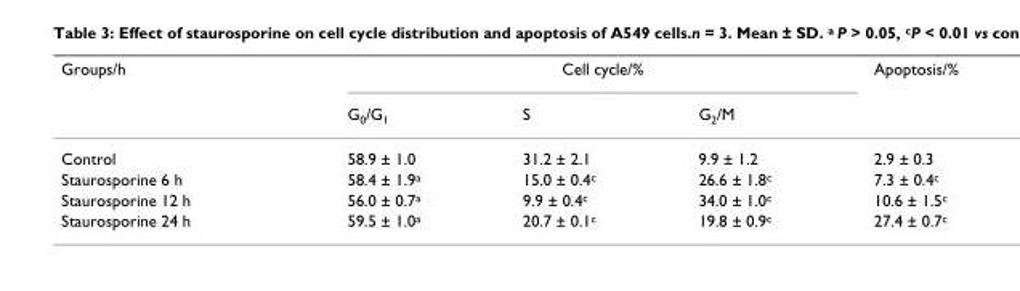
<table><thead><tr><td rowspan="2">Groups/h</td><td colspan="3">Cell cycle/%</td><td rowspan="2">Apoptosis/%</td></tr><tr><td>G<sub>0</sub>/G<sub>1</sub></td><td>S</td><td>G<sub>2</sub>/M</td></tr></thead><tbody><tr><td>Control</td><td>58.9 ± 1.0</td><td>31.2 ± 2.1</td><td>9.9 ± 1.2</td><td>2.9 ± 0.3</td></tr><tr><td>Staurosporine 6 h</td><td>58.4 ± 1.9<sup>a</sup></td><td>15.0 ± 0.4<sup>c</sup></td><td>26.6 ± 1.8<sup>c</sup></td><td>7.3 ± 0.4<sup>c</sup></td></tr><tr><td>Staurosporine 12 h</td><td>56.0 ± 0.7<sup>a</sup></td><td>9.9 ± 0.4<sup>c</sup></td><td>34.0 ± 1.0<sup>c</sup></td><td>10.6 ± 1.5<sup>c</sup></td></tr><tr><td>Staurosporine 24 h</td><td>59.5 ± 1.0<sup>a</sup></td><td>20.7 ± 0.1<sup>c</sup></td><td>19.8 ± 0.9<sup>c</sup></td><td>27.4 ± 0.7<sup>c</sup></td></tr></tbody></table>